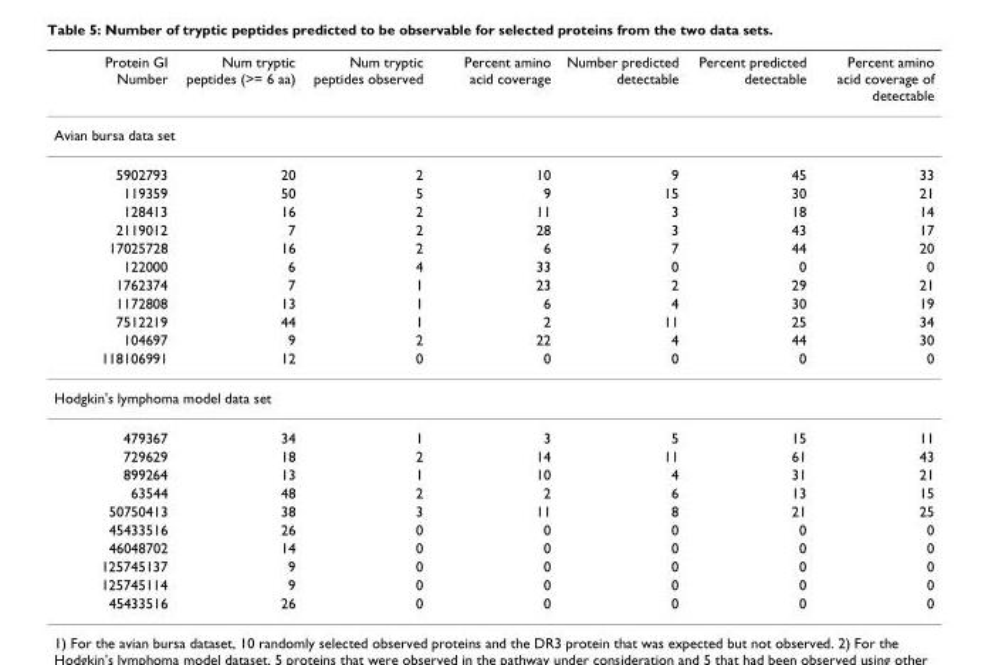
<table><thead><tr><td>Protein GI Number</td><td>Num tryptic peptides (&gt;= 6 aa)</td><td>Num tryptic peptides observed</td><td>Percent amino acid coverage</td><td>Number predicted detectable</td><td>Percent predicted detectable</td><td>Percent amino acid coverage of detectable</td></tr></thead><tbody><tr><td colspan="7">Avian bursa data set</td></tr><tr><td>5902793</td><td>20</td><td>2</td><td>10</td><td>9</td><td>45</td><td>33</td></tr><tr><td>119359</td><td>50</td><td>5</td><td>9</td><td>15</td><td>30</td><td>21</td></tr><tr><td>128413</td><td>16</td><td>2</td><td>11</td><td>3</td><td>18</td><td>14</td></tr><tr><td>2119012</td><td>7</td><td>2</td><td>28</td><td>3</td><td>43</td><td>17</td></tr><tr><td>17025728</td><td>16</td><td>2</td><td>6</td><td>7</td><td>44</td><td>20</td></tr><tr><td>122000</td><td>6</td><td>4</td><td>33</td><td>0</td><td>0</td><td>0</td></tr><tr><td>1762374</td><td>7</td><td>1</td><td>23</td><td>2</td><td>29</td><td>21</td></tr><tr><td>1172808</td><td>13</td><td>1</td><td>6</td><td>4</td><td>30</td><td>19</td></tr><tr><td>7512219</td><td>44</td><td>1</td><td>2</td><td>11</td><td>25</td><td>34</td></tr><tr><td>104697</td><td>9</td><td>2</td><td>22</td><td>4</td><td>44</td><td>30</td></tr><tr><td>118106991</td><td>12</td><td>0</td><td>0</td><td>0</td><td>0</td><td>0</td></tr><tr><td colspan="7">Hodgkin&#x27;s lymphoma model data set</td></tr><tr><td>479367</td><td>34</td><td>1</td><td>3</td><td>5</td><td>15</td><td>11</td></tr><tr><td>729629</td><td>18</td><td>2</td><td>14</td><td>11</td><td>61</td><td>43</td></tr><tr><td>899264</td><td>13</td><td>1</td><td>10</td><td>4</td><td>31</td><td>21</td></tr><tr><td>63544</td><td>48</td><td>2</td><td>2</td><td>6</td><td>13</td><td>15</td></tr><tr><td>50750413</td><td>38</td><td>3</td><td>11</td><td>8</td><td>21</td><td>25</td></tr><tr><td>45433516</td><td>26</td><td>0</td><td>0</td><td>0</td><td>0</td><td>0</td></tr><tr><td>46048702</td><td>14</td><td>0</td><td>0</td><td>0</td><td>0</td><td>0</td></tr><tr><td>125745137</td><td>9</td><td>0</td><td>0</td><td>0</td><td>0</td><td>0</td></tr><tr><td>125745114</td><td>9</td><td>0</td><td>0</td><td>0</td><td>0</td><td>0</td></tr><tr><td>45433516</td><td>26</td><td>0</td><td>0</td><td>0</td><td>0</td><td>0</td></tr></tbody></table>